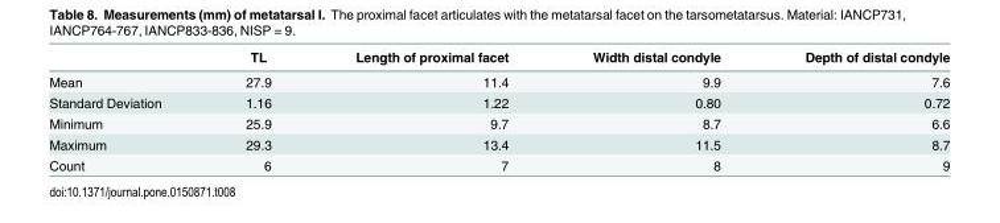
<table><thead><tr><td></td><td>TL</td><td>Length of proximal facet</td><td>Width distal condyle</td><td>Depth of distal condyle</td></tr></thead><tbody><tr><td>Mean</td><td>27.9</td><td>11.4</td><td>9.9</td><td>7.6</td></tr><tr><td>Standard Deviation</td><td>1.16</td><td>1.22</td><td>0.80</td><td>0.72</td></tr><tr><td>Minimum</td><td>25.9</td><td>9.7</td><td>8.7</td><td>6.6</td></tr><tr><td>Maximum</td><td>29.3</td><td>13.4</td><td>11.5</td><td>8.7</td></tr><tr><td>Count</td><td>6</td><td>7</td><td>8</td><td>9</td></tr></tbody></table>